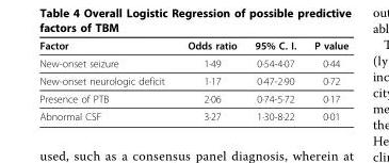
<table><thead><tr><td>Factor</td><td>Odds ratio</td><td>95% C. I.</td><td>P value</td></tr></thead><tbody><tr><td>New-onset seizure</td><td>1·49</td><td>0·54-4·07</td><td>0·44</td></tr><tr><td>New-onset neurologic deficit</td><td>1·17</td><td>0·47-2·90</td><td>0·72</td></tr><tr><td>Presence of PTB</td><td>2·06</td><td>0·74-5·72</td><td>0·17</td></tr><tr><td>Abnormal CSF</td><td>3·27</td><td>1·30-8·22</td><td>0·01</td></tr></tbody></table>